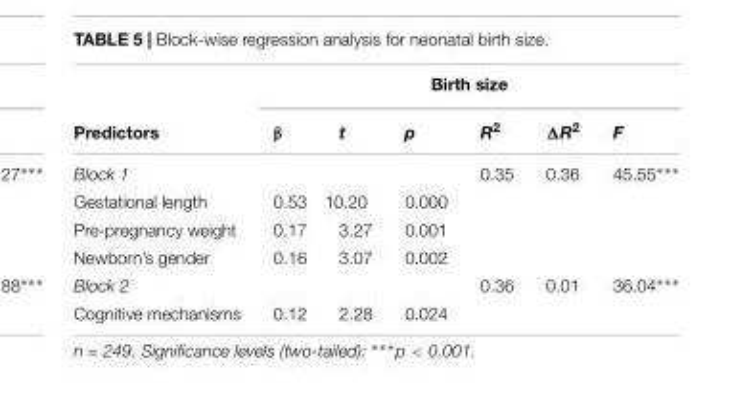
<table><thead><tr><td rowspan="2">Predictors</td><td colspan="6">Birth size</td></tr><tr><td>β</td><td>t</td><td>p</td><td>R<sup>2</sup></td><td>ΔR<sup>2</sup></td><td>F</td></tr></thead><tbody><tr><td>Block 1</td><td></td><td></td><td></td><td>0.35</td><td>0.36</td><td>45.55∗∗∗</td></tr><tr><td>Gestational length</td><td>0.53</td><td>10.20</td><td>0.000</td><td></td><td></td><td></td></tr><tr><td>Pre-pregnancy weight</td><td>0.17</td><td>3.27</td><td>0.001</td><td></td><td></td><td></td></tr><tr><td>Newborn’s gender</td><td>0.16</td><td>3.07</td><td>0.002</td><td></td><td></td><td></td></tr><tr><td>Block 2</td><td></td><td></td><td></td><td>0.36</td><td>0.01</td><td>36.04∗∗∗</td></tr><tr><td>Cognitive mechanisms</td><td>0.12</td><td>2.28</td><td>0.024</td><td></td><td></td><td></td></tr></tbody></table>